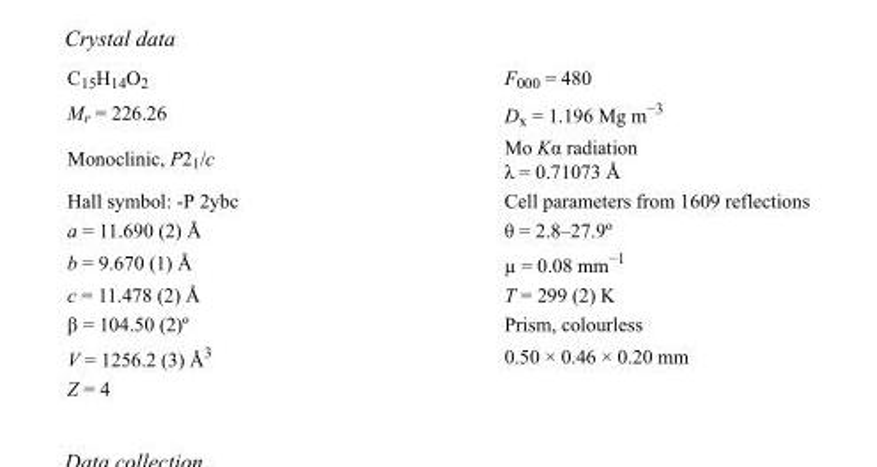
<table><tbody><tr><td>C<sub>15</sub>H<sub>14</sub>O<sub>2</sub></td><td>F<sub>000</sub> = 480</td></tr><tr><td>M<sub>r</sub> = 226.26</td><td>D<sub>x</sub> = 1.196 Mg m<sup>−3</sup></td></tr><tr><td>Monoclinic, P2<sub>1</sub>/c</td><td>Mo Kα radiation λ = 0.71073 Å</td></tr><tr><td>Hall symbol: -P 2ybc</td><td>Cell parameters from 1609 reflections</td></tr><tr><td>a = 11.690 (2) Å</td><td>θ = 2.8–27.9º</td></tr><tr><td>b = 9.670 (1) Å</td><td>µ = 0.08 mm<sup>−1</sup></td></tr><tr><td>c = 11.478 (2) Å</td><td>T = 299 (2) K</td></tr><tr><td>β = 104.50 (2)º</td><td>Prism, colourless</td></tr><tr><td>V = 1256.2 (3) Å<sup>3</sup></td><td>0.50 × 0.46 × 0.20 mm</td></tr><tr><td>Z = 4</td><td></td></tr></tbody></table>